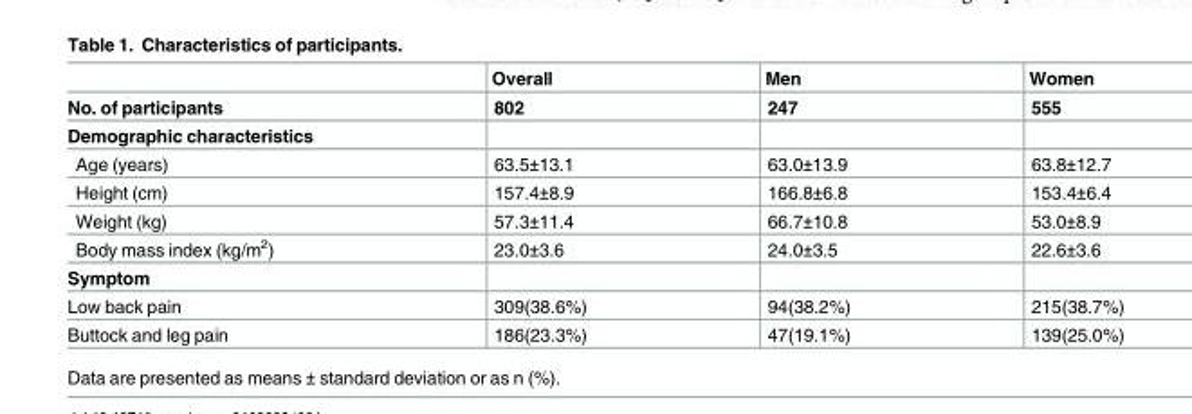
<table><thead><tr><td></td><td>Overall</td><td>Men</td><td>Women</td></tr></thead><tbody><tr><td>No. of participants</td><td>802</td><td>247</td><td>555</td></tr><tr><td colspan="4">Demographic characteristics</td></tr><tr><td>Age (years)</td><td>63.5±13.1</td><td>63.0±13.9</td><td>63.8±12.7</td></tr><tr><td>Height (cm)</td><td>157.4±8.9</td><td>166.8±6.8</td><td>153.4±6.4</td></tr><tr><td>Weight (kg)</td><td>57.3±11.4</td><td>66.7±10.8</td><td>53.0±8.9</td></tr><tr><td>Body mass index (kg/m<sup>2</sup>)</td><td>23.0±3.6</td><td>24.0±3.5</td><td>22.6±3.6</td></tr><tr><td colspan="4">Symptom</td></tr><tr><td>Low back pain</td><td>309(38.6%)</td><td>94(38.2%)</td><td>215(38.7%)</td></tr><tr><td>Buttock and leg pain</td><td>186(23.3%)</td><td>47(19.1%)</td><td>139(25.0%)</td></tr></tbody></table>